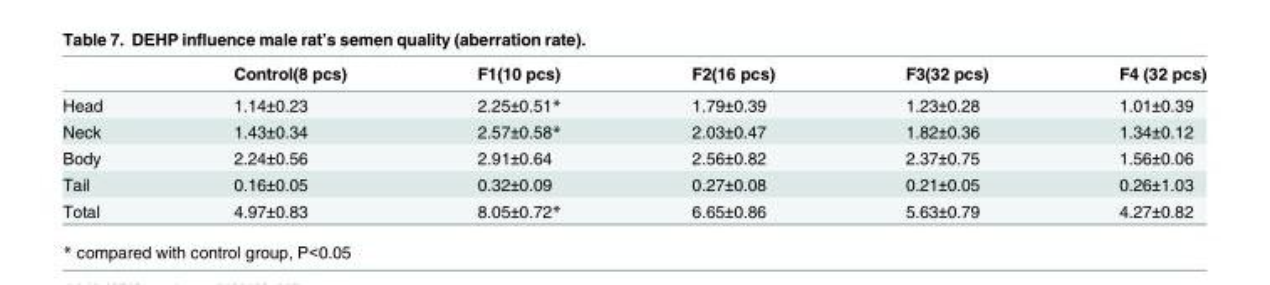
<table><thead><tr><td></td><td>Control(8 pcs)</td><td>F1(10 pcs)</td><td>F2(16 pcs)</td><td>F3(32 pcs)</td><td>F4 (32 pcs)</td></tr></thead><tbody><tr><td>Head</td><td>1.14±0.23</td><td>2.25±0.51*</td><td>1.79±0.39</td><td>1.23±0.28</td><td>1.01±0.39</td></tr><tr><td>Neck</td><td>1.43±0.34</td><td>2.57±0.58*</td><td>2.03±0.47</td><td>1.82±0.36</td><td>1.34±0.12</td></tr><tr><td>Body</td><td>2.24±0.56</td><td>2.91±0.64</td><td>2.56±0.82</td><td>2.37±0.75</td><td>1.56±0.06</td></tr><tr><td>Tail</td><td>0.16±0.05</td><td>0.32±0.09</td><td>0.27±0.08</td><td>0.21±0.05</td><td>0.26±1.03</td></tr><tr><td>Total</td><td>4.97±0.83</td><td>8.05±0.72*</td><td>6.65±0.86</td><td>5.63±0.79</td><td>4.27±0.82</td></tr></tbody></table>